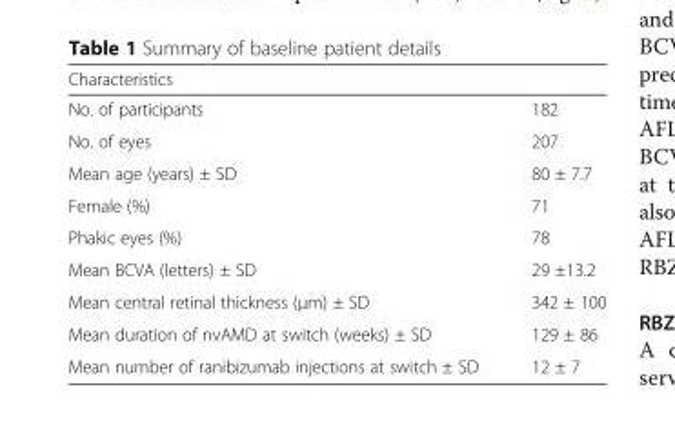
<table><thead><tr><td colspan="2">Characteristics</td></tr><tr><td>No. of participants</td><td>182</td></tr></thead><tbody><tr><td>No. of eyes</td><td>207</td></tr><tr><td>Mean age (years) ± SD</td><td>80 ± 7.7</td></tr><tr><td>Female (%)</td><td>71</td></tr><tr><td>Phakic eyes (%)</td><td>78</td></tr><tr><td>Mean BCVA (letters) ± SD</td><td>29 ±13.2</td></tr><tr><td>Mean central retinal thickness (μm) ± SD</td><td>342 ± 100</td></tr><tr><td>Mean duration of nvAMD at switch (weeks) ± SD</td><td>129 ± 86</td></tr><tr><td>Mean number of ranibizumab injections at switch ± SD</td><td>12 ± 7</td></tr></tbody></table>